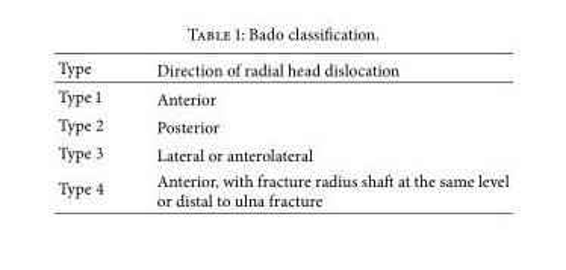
<table><thead><tr><td>Type</td><td>Direction of radial head dislocation</td></tr></thead><tbody><tr><td>Type 1</td><td>Anterior</td></tr><tr><td>Type 2</td><td>Posterior</td></tr><tr><td>Type 3</td><td>Lateral or anterolateral</td></tr><tr><td>Type 4</td><td>Anterior, with fracture radius shaft at the same level or distal to ulna fracture</td></tr></tbody></table>